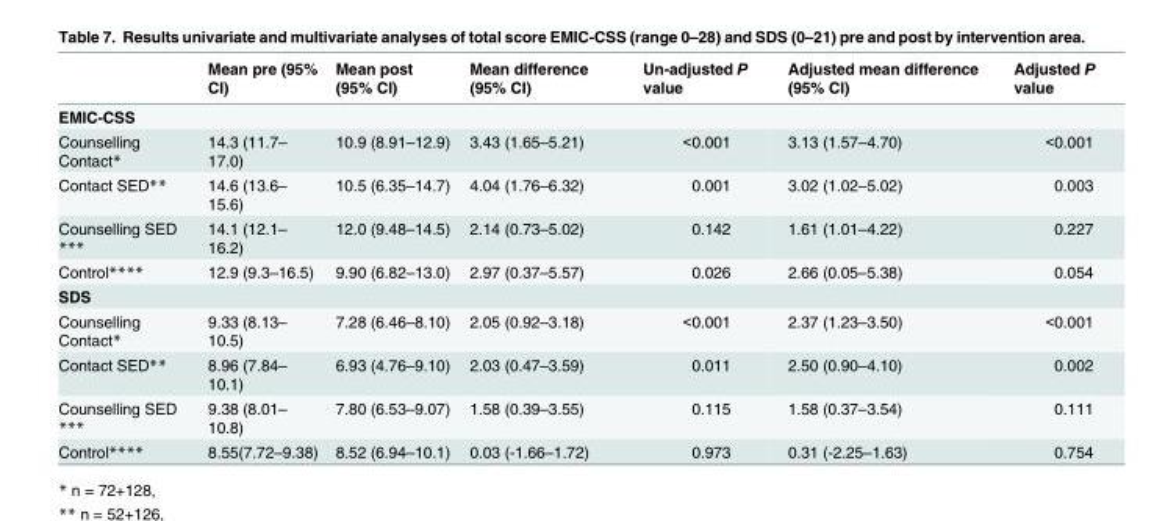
<table><thead><tr><td></td><td>Mean pre (95% CI)</td><td>Mean post (95% CI)</td><td>Mean difference (95% CI)</td><td>Un-adjusted P value</td><td>Adjusted mean difference (95% CI)</td><td>Adjusted P value</td></tr></thead><tbody><tr><td colspan="7">EMIC-CSS</td></tr><tr><td>Counselling Contact*</td><td>14.3 (11.7– 17.0)</td><td>10.9 (8.91–12.9)</td><td>3.43 (1.65–5.21)</td><td>&lt;0.001</td><td>3.13 (1.57–4.70)</td><td>&lt;0.001</td></tr><tr><td>Contact SED**</td><td>14.6 (13.6– 15.6)</td><td>10.5 (6.35–14.7)</td><td>4.04 (1.76–6.32)</td><td>0.001</td><td>3.02 (1.02–5.02)</td><td>0.003</td></tr><tr><td>Counselling SED ***</td><td>14.1 (12.1– 16.2)</td><td>12.0 (9.48–14.5)</td><td>2.14 (0.73–5.02)</td><td>0.142</td><td>1.61 (1.01–4.22)</td><td>0.227</td></tr><tr><td>Control****</td><td>12.9 (9.3–16.5)</td><td>9.90 (6.82–13.0)</td><td>2.97 (0.37–5.57)</td><td>0.026</td><td>2.66 (0.05–5.38)</td><td>0.054</td></tr><tr><td colspan="7">SDS</td></tr><tr><td>Counselling Contact*</td><td>9.33 (8.13– 10.5)</td><td>7.28 (6.46–8.10)</td><td>2.05 (0.92–3.18)</td><td>&lt;0.001</td><td>2.37 (1.23–3.50)</td><td>&lt;0.001</td></tr><tr><td>Contact SED**</td><td>8.96 (7.84– 10.1)</td><td>6.93 (4.76–9.10)</td><td>2.03 (0.47–3.59)</td><td>0.011</td><td>2.50 (0.90–4.10)</td><td>0.002</td></tr><tr><td>Counselling SED ***</td><td>9.38 (8.01– 10.8)</td><td>7.80 (6.53–9.07)</td><td>1.58 (0.39–3.55)</td><td>0.115</td><td>1.58 (0.37–3.54)</td><td>0.111</td></tr><tr><td>Control****</td><td>8.55(7.72–9.38)</td><td>8.52 (6.94–10.1)</td><td>0.03 (-1.66–1.72)</td><td>0.973</td><td>0.31 (-2.25–1.63)</td><td>0.754</td></tr></tbody></table>